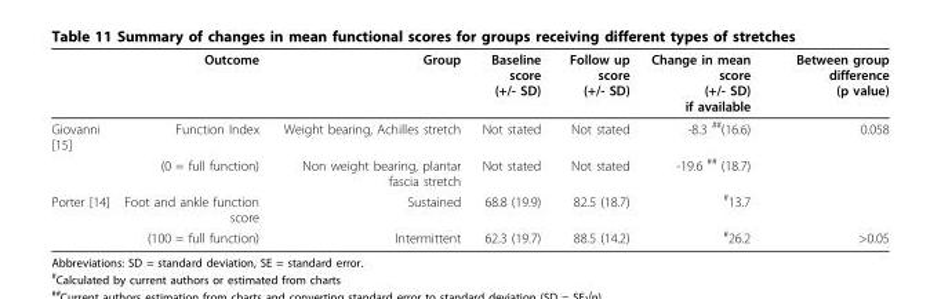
<table><thead><tr><td></td><td>Outcome</td><td>Group</td><td>Baseline score (+/- SD)</td><td>Follow up score (+/- SD)</td><td>Change in mean score (+/- SD) if available</td><td>Between group difference (p value)</td></tr></thead><tbody><tr><td rowspan="2">Giovanni [15]</td><td>Function Index</td><td>Weight bearing, Achilles stretch</td><td>Not stated</td><td>Not stated</td><td>-8.3 <sup>##</sup>(16.6)</td><td>0.058</td></tr><tr><td>(0 = full function)</td><td>Non weight bearing, plantar fascia stretch</td><td>Not stated</td><td>Not stated</td><td>-19.6 <sup>##</sup> (18.7)</td><td></td></tr><tr><td rowspan="2">Porter [14]</td><td>Foot and ankle function score</td><td>Sustained</td><td>68.8 (19.9)</td><td>82.5 (18.7)</td><td><sup>#</sup>13.7</td><td></td></tr><tr><td>(100 = full function)</td><td>Intermittent</td><td>62.3 (19.7)</td><td>88.5 (14.2)</td><td><sup>#</sup>26.2</td><td>&gt;0.05</td></tr></tbody></table>